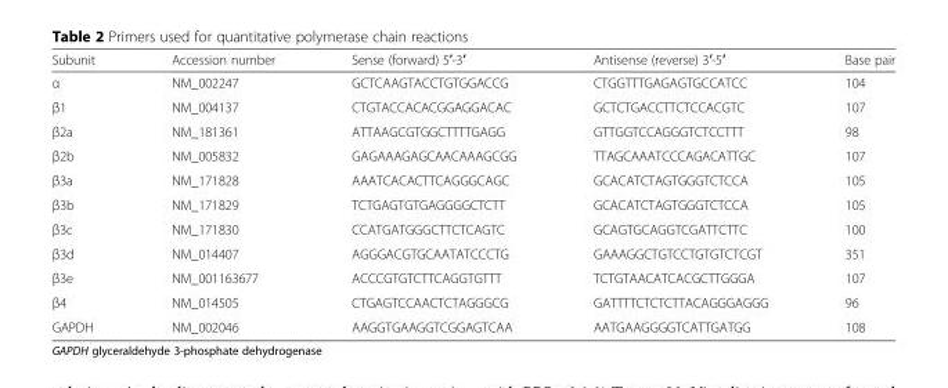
<table><thead><tr><td>Subunit</td><td>Accession number</td><td>Sense (forward) 5′-3′</td><td>Antisense (reverse) 3′-5′</td><td>Base pair</td></tr></thead><tbody><tr><td>α</td><td>NM_002247</td><td>GCTCAAGTACCTGTGGACCG</td><td>CTGGTTTGAGAGTGCCATCC</td><td>104</td></tr><tr><td>β1</td><td>NM_004137</td><td>CTGTACCACACGGAGGACAC</td><td>GCTCTGACCTTCTCCACGTC</td><td>107</td></tr><tr><td>β2a</td><td>NM_181361</td><td>ATTAAGCGTGGCTTTTGAGG</td><td>GTTGGTCCAGGGTCTCCTTT</td><td>98</td></tr><tr><td>β2b</td><td>NM_005832</td><td>GAGAAAGAGCAACAAAGCGG</td><td>TTAGCAAATCCCAGACATTGC</td><td>107</td></tr><tr><td>β3a</td><td>NM_171828</td><td>AAATCACACTTCAGGGCAGC</td><td>GCACATCTAGTGGGTCTCCA</td><td>105</td></tr><tr><td>β3b</td><td>NM_171829</td><td>TCTGAGTGTGAGGGGCTCTT</td><td>GCACATCTAGTGGGTCTCCA</td><td>105</td></tr><tr><td>β3c</td><td>NM_171830</td><td>CCATGATGGGCTTCTCAGTC</td><td>GCAGTGCAGGTCGATTCTTC</td><td>100</td></tr><tr><td>β3d</td><td>NM_014407</td><td>AGGGACGTGCAATATCCCTG</td><td>GAAAGGCTGTCCTGTGTCTCGT</td><td>351</td></tr><tr><td>β3e</td><td>NM_001163677</td><td>ACCCGTGTCTTCAGGTGTTT</td><td>TCTGTAACATCACGCTTGGGA</td><td>107</td></tr><tr><td>β4</td><td>NM_014505</td><td>CTGAGTCCAACTCTAGGGCG</td><td>GATTTTCTCTCTTACAGGGAGGG</td><td>96</td></tr><tr><td>GAPDH</td><td>NM_002046</td><td>AAGGTGAAGGTCGGAGTCAA</td><td>AATGAAGGGGTCATTGATGG</td><td>108</td></tr></tbody></table>